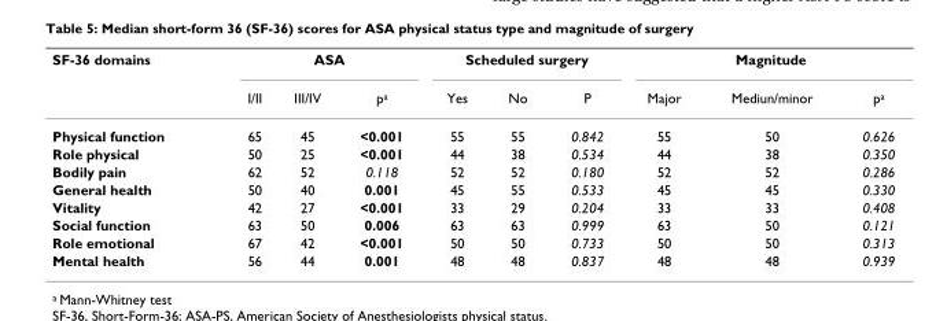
<table><thead><tr><td rowspan="2">SF-36 domains</td><td colspan="3">ASA</td><td colspan="3">Scheduled surgery</td><td colspan="3">Magnitude</td></tr><tr><td>I/II</td><td>III/IV</td><td>p<sup>a</sup></td><td>Yes</td><td>No</td><td>P</td><td>Major</td><td>Mediun/minor</td><td>p<sup>a</sup></td></tr></thead><tbody><tr><td>Physical function</td><td>65</td><td>45</td><td>&lt;0.001</td><td>55</td><td>55</td><td>0.842</td><td>55</td><td>50</td><td>0.626</td></tr><tr><td>Role physical</td><td>50</td><td>25</td><td>&lt;0.001</td><td>44</td><td>38</td><td>0.534</td><td>44</td><td>38</td><td>0.350</td></tr><tr><td>Bodily pain</td><td>62</td><td>52</td><td>0.118</td><td>52</td><td>52</td><td>0.180</td><td>52</td><td>52</td><td>0.286</td></tr><tr><td>General health</td><td>50</td><td>40</td><td>0.001</td><td>45</td><td>55</td><td>0.533</td><td>45</td><td>45</td><td>0.330</td></tr><tr><td>Vitality</td><td>42</td><td>27</td><td>&lt;0.001</td><td>33</td><td>29</td><td>0.204</td><td>33</td><td>33</td><td>0.408</td></tr><tr><td>Social function</td><td>63</td><td>50</td><td>0.006</td><td>63</td><td>63</td><td>0.999</td><td>63</td><td>50</td><td>0.121</td></tr><tr><td>Role emotional</td><td>67</td><td>42</td><td>&lt;0.001</td><td>50</td><td>50</td><td>0.733</td><td>50</td><td>50</td><td>0.313</td></tr><tr><td>Mental health</td><td>56</td><td>44</td><td>0.001</td><td>48</td><td>48</td><td>0.837</td><td>48</td><td>48</td><td>0.939</td></tr></tbody></table>